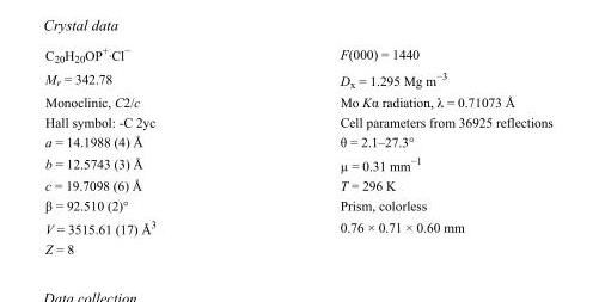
<table><tbody><tr><td>C<sub>20</sub>H<sub>20</sub>OP<sup>+</sup>·Cl<sup>−</sup></td><td>F(000) = 1440</td></tr><tr><td>M<sub>r</sub> = 342.78</td><td>D<sub>x</sub> = 1.295 Mg m<sup>−3</sup></td></tr><tr><td>Monoclinic, C2/c</td><td>Mo Kα radiation, λ = 0.71073 Å</td></tr><tr><td>Hall symbol: -C 2yc</td><td>Cell parameters from 36925 reflections</td></tr><tr><td>a = 14.1988 (4) Å</td><td>θ = 2.1–27.3°</td></tr><tr><td>b = 12.5743 (3) Å</td><td>µ = 0.31 mm<sup>−1</sup></td></tr><tr><td>c = 19.7098 (6) Å</td><td>T = 296 K</td></tr><tr><td>β = 92.510 (2)°</td><td>Prism, colorless</td></tr><tr><td>V = 3515.61 (17) Å<sup>3</sup></td><td>0.76 × 0.71 × 0.60 mm</td></tr><tr><td>Z = 8</td><td></td></tr></tbody></table>